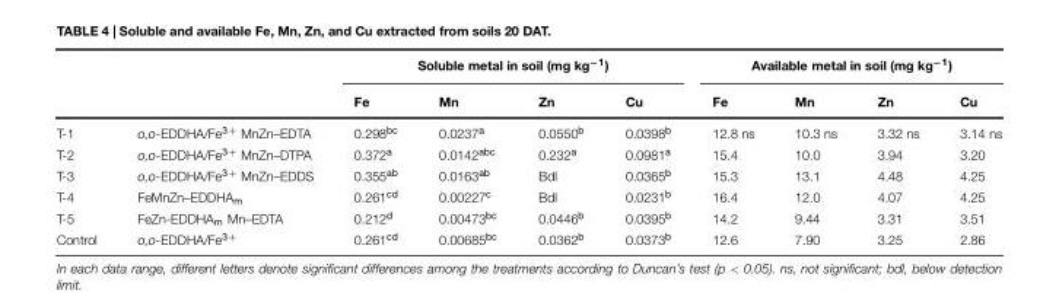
<table><thead><tr><td rowspan="2"></td><td rowspan="2"></td><td colspan="4">Soluble metal in soil (mg kg<sup>−1</sup>)</td><td colspan="4">Available metal in soil (mg kg<sup>−1</sup>)</td></tr><tr><td>Fe</td><td>Mn</td><td>Zn</td><td>Cu</td><td>Fe</td><td>Mn</td><td>Zn</td><td>Cu</td></tr></thead><tbody><tr><td>T-1</td><td>o,o-EDDHA/Fe<sup>3+</sup> MnZn–EDTA</td><td>0.298<sup>bc</sup></td><td>0.0237<sup>a</sup></td><td>0.0550<sup>b</sup></td><td>0.0398<sup>b</sup></td><td>12.8 ns</td><td>10.3 ns</td><td>3.32 ns</td><td>3.14 ns</td></tr><tr><td>T-2</td><td>o,o-EDDHA/Fe<sup>3+</sup> MnZn–DTPA</td><td>0.372<sup>a</sup></td><td>0.0142<sup>abc</sup></td><td>0.232<sup>a</sup></td><td>0.0981<sup>a</sup></td><td>15.4</td><td>10.0</td><td>3.94</td><td>3.20</td></tr><tr><td>T-3</td><td>o,o-EDDHA/Fe<sup>3+</sup> MnZn–EDDS</td><td>0.355<sup>ab</sup></td><td>0.0163<sup>ab</sup></td><td>Bdl</td><td>0.0365<sup>b</sup></td><td>15.3</td><td>13.1</td><td>4.48</td><td>4.25</td></tr><tr><td>T-4</td><td>FeMnZn–EDDHA<sub>m</sub></td><td>0.261<sup>cd</sup></td><td>0.00227<sup>c</sup></td><td>Bdl</td><td>0.0231<sup>b</sup></td><td>16.4</td><td>12.0</td><td>4.07</td><td>4.25</td></tr><tr><td>T-5</td><td>FeZn-EDDHA<sub>m</sub> Mn–EDTA</td><td>0.212<sup>d</sup></td><td>0.00473<sup>bc</sup></td><td>0.0446<sup>b</sup></td><td>0.0395<sup>b</sup></td><td>14.2</td><td>9.44</td><td>3.31</td><td>3.51</td></tr><tr><td>Control</td><td>o,o-EDDHA/Fe<sup>3+</sup></td><td>0.261<sup>cd</sup></td><td>0.00685<sup>bc</sup></td><td>0.0362<sup>b</sup></td><td>0.0373<sup>b</sup></td><td>12.6</td><td>7.90</td><td>3.25</td><td>2.86</td></tr></tbody></table>